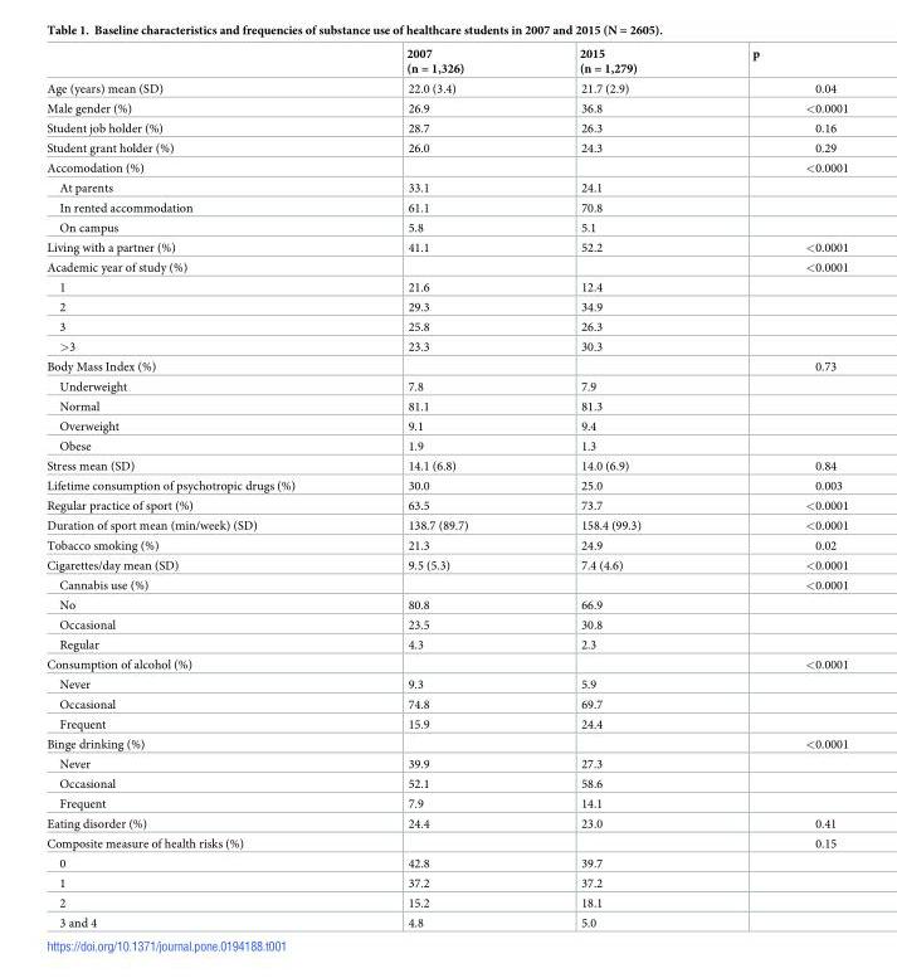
<table><thead><tr><td></td><td>2007 (n = 1,326)</td><td>2015 (n = 1,279)</td><td>p</td></tr></thead><tbody><tr><td>Age (years) mean (SD)</td><td>22.0 (3.4)</td><td>21.7 (2.9)</td><td>0.04</td></tr><tr><td>Male gender (%)</td><td>26.9</td><td>36.8</td><td>&lt;0.0001</td></tr><tr><td>Student job holder (%)</td><td>28.7</td><td>26.3</td><td>0.16</td></tr><tr><td>Student grant holder (%)</td><td>26.0</td><td>24.3</td><td>0.29</td></tr><tr><td>Accomodation (%)</td><td></td><td></td><td>&lt;0.0001</td></tr><tr><td>At parents</td><td>33.1</td><td>24.1</td><td></td></tr><tr><td>In rented accommodation</td><td>61.1</td><td>70.8</td><td></td></tr><tr><td>On campus</td><td>5.8</td><td>5.1</td><td></td></tr><tr><td>Living with a partner (%)</td><td>41.1</td><td>52.2</td><td>&lt;0.0001</td></tr><tr><td>Academic year of study (%)</td><td></td><td></td><td>&lt;0.0001</td></tr><tr><td>1</td><td>21.6</td><td>12.4</td><td></td></tr><tr><td>2</td><td>29.3</td><td>34.9</td><td></td></tr><tr><td>3</td><td>25.8</td><td>26.3</td><td></td></tr><tr><td>&gt;3</td><td>23.3</td><td>30.3</td><td></td></tr><tr><td>Body Mass Index (%)</td><td></td><td></td><td>0.73</td></tr><tr><td>Underweight</td><td>7.8</td><td>7.9</td><td></td></tr><tr><td>Normal</td><td>81.1</td><td>81.3</td><td></td></tr><tr><td>Overweight</td><td>9.1</td><td>9.4</td><td></td></tr><tr><td>Obese</td><td>1.9</td><td>1.3</td><td></td></tr><tr><td>Stress mean (SD)</td><td>14.1 (6.8)</td><td>14.0 (6.9)</td><td>0.84</td></tr><tr><td>Lifetime consumption of psychotropic drugs (%)</td><td>30.0</td><td>25.0</td><td>0.003</td></tr><tr><td>Regular practice of sport (%)</td><td>63.5</td><td>73.7</td><td>&lt;0.0001</td></tr><tr><td>Duration of sport mean (min/week) (SD)</td><td>138.7 (89.7)</td><td>158.4 (99.3)</td><td>&lt;0.0001</td></tr><tr><td>Tobacco smoking (%)</td><td>21.3</td><td>24.9</td><td>0.02</td></tr><tr><td>Cigarettes/day mean (SD)</td><td>9.5 (5.3)</td><td>7.4 (4.6)</td><td>&lt;0.0001</td></tr><tr><td>Cannabis use (%)</td><td></td><td></td><td>&lt;0.0001</td></tr><tr><td>No</td><td>80.8</td><td>66.9</td><td></td></tr><tr><td>Occasional</td><td>23.5</td><td>30.8</td><td></td></tr><tr><td>Regular</td><td>4.3</td><td>2.3</td><td></td></tr><tr><td>Consumption of alcohol (%)</td><td></td><td></td><td>&lt;0.0001</td></tr><tr><td>Never</td><td>9.3</td><td>5.9</td><td></td></tr><tr><td>Occasional</td><td>74.8</td><td>69.7</td><td></td></tr><tr><td>Frequent</td><td>15.9</td><td>24.4</td><td></td></tr><tr><td>Binge drinking (%)</td><td></td><td></td><td>&lt;0.0001</td></tr><tr><td>Never</td><td>39.9</td><td>27.3</td><td></td></tr><tr><td>Occasional</td><td>52.1</td><td>58.6</td><td></td></tr><tr><td>Frequent</td><td>7.9</td><td>14.1</td><td></td></tr><tr><td>Eating disorder (%)</td><td>24.4</td><td>23.0</td><td>0.41</td></tr><tr><td>Composite measure of health risks (%)</td><td></td><td></td><td>0.15</td></tr><tr><td>0</td><td>42.8</td><td>39.7</td><td></td></tr><tr><td>1</td><td>37.2</td><td>37.2</td><td></td></tr><tr><td>2</td><td>15.2</td><td>18.1</td><td></td></tr><tr><td>3 and 4</td><td>4.8</td><td>5.0</td><td></td></tr></tbody></table>